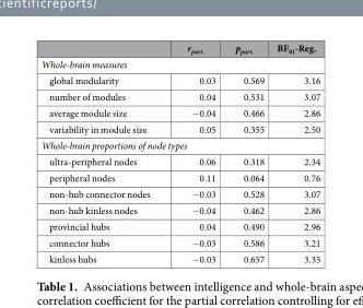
<table><thead><tr><td></td><td>r<sub>part.</sub></td><td>p<sub>part.</sub></td><td>BF<sub>01</sub>-Reg.</td></tr></thead><tbody><tr><td colspan="4">Whole-brain measures</td></tr><tr><td>global modularity</td><td>0.03</td><td>0.569</td><td>3.16</td></tr><tr><td>number of modules</td><td>0.04</td><td>0.531</td><td>3.07</td></tr><tr><td>average module size</td><td>−0.04</td><td>0.466</td><td>2.86</td></tr><tr><td>variability in module size</td><td>0.05</td><td>0.355</td><td>2.50</td></tr><tr><td colspan="4">Whole-brain proportions of node types</td></tr><tr><td>ultra-peripheral nodes</td><td>0.06</td><td>0.318</td><td>2.34</td></tr><tr><td>peripheral nodes</td><td>0.11</td><td>0.064</td><td>0.76</td></tr><tr><td>non-hub connector nodes</td><td>−0.03</td><td>0.528</td><td>3.07</td></tr><tr><td>non-hub kinless nodes</td><td>−0.04</td><td>0.462</td><td>2.86</td></tr><tr><td>provincial hubs</td><td>0.04</td><td>0.490</td><td>2.96</td></tr><tr><td>connector hubs</td><td>−0.03</td><td>0.586</td><td>3.21</td></tr><tr><td>kinless hubs</td><td>−0.03</td><td>0.657</td><td>3.35</td></tr></tbody></table>